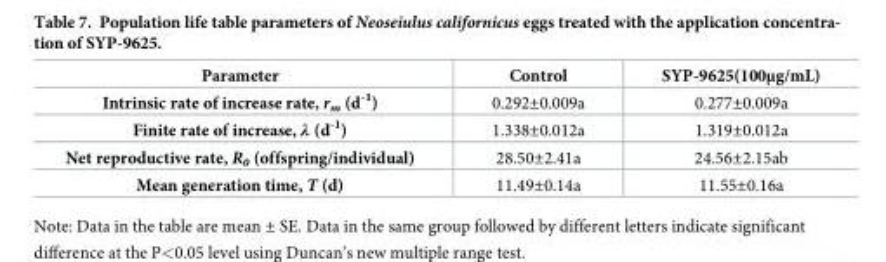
<table><thead><tr><td>Parameter</td><td>Control</td><td>SYP-9625(100μg/mL)</td></tr></thead><tbody><tr><td>Intrinsic rate of increase rate, r<sub>m</sub> (d<sup>-1</sup>)</td><td>0.292±0.009a</td><td>0.277±0.009a</td></tr><tr><td>Finite rate of increase, λ (d<sup>-1</sup>)</td><td>1.338±0.012a</td><td>1.319±0.012a</td></tr><tr><td>Net reproductive rate, R<sub>0</sub> (offspring/individual)</td><td>28.50±2.41a</td><td>24.56±2.15ab</td></tr><tr><td>Mean generation time, T (d)</td><td>11.49±0.14a</td><td>11.55±0.16a</td></tr></tbody></table>